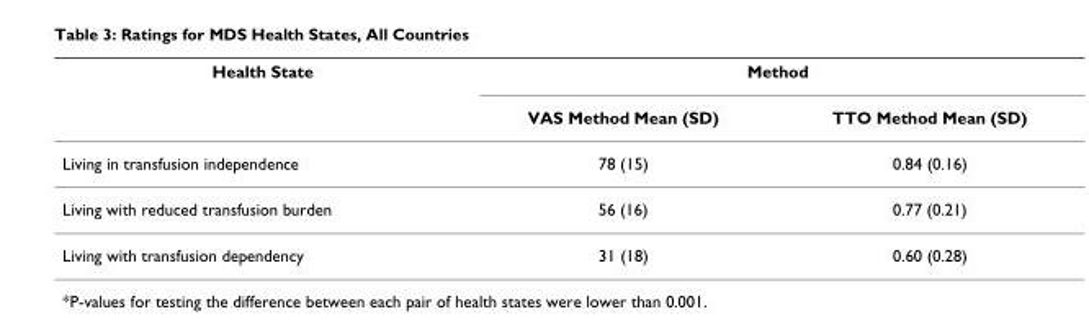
<table><thead><tr><td rowspan="2">Health State</td><td colspan="2">Method</td></tr><tr><td>VAS Method Mean (SD)</td><td>TTO Method Mean (SD)</td></tr></thead><tbody><tr><td>Living in transfusion independence</td><td>78 (15)</td><td>0.84 (0.16)</td></tr><tr><td>Living with reduced transfusion burden</td><td>56 (16)</td><td>0.77 (0.21)</td></tr><tr><td>Living with transfusion dependency</td><td>31 (18)</td><td>0.60 (0.28)</td></tr></tbody></table>